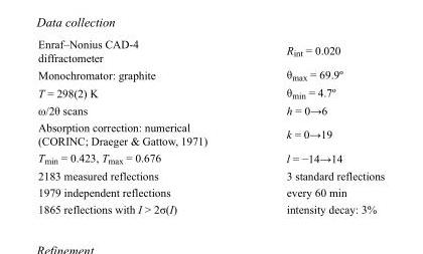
<table><tbody><tr><td>Enraf–Nonius CAD-4 diffractometer</td><td>R<sub>int</sub> = 0.020</td></tr><tr><td>Monochromator: graphite</td><td>θ<sub>max</sub> = 69.9º</td></tr><tr><td>T = 298(2) K</td><td>θ<sub>min</sub> = 4.7º</td></tr><tr><td>ω/2θ scans</td><td>h = 0→6</td></tr><tr><td>Absorption correction: numerical (CORINC; Draeger &amp; Gattow, 1971)</td><td>k = 0→19</td></tr><tr><td>T<sub>min</sub> = 0.423, T<sub>max</sub> = 0.676</td><td>l = −14→14</td></tr><tr><td>2183 measured reflections</td><td>3 standard reflections</td></tr><tr><td>1979 independent reflections</td><td>every 60 min</td></tr><tr><td>1865 reflections with I &gt; 2σ(I)</td><td>intensity decay: 3%</td></tr></tbody></table>